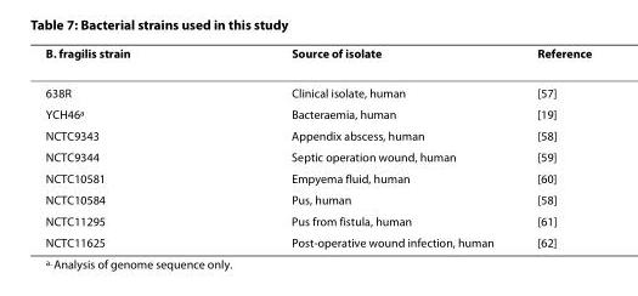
<table><thead><tr><td>B. fragilis strain</td><td>Source of isolate</td><td>Reference</td></tr></thead><tbody><tr><td>638R</td><td>Clinical isolate, human</td><td>[57]</td></tr><tr><td>YCH46<sup>a</sup></td><td>Bacteraemia, human</td><td>[19]</td></tr><tr><td>NCTC9343</td><td>Appendix abscess, human</td><td>[58]</td></tr><tr><td>NCTC9344</td><td>Septic operation wound, human</td><td>[59]</td></tr><tr><td>NCTC10581</td><td>Empyema fluid, human</td><td>[60]</td></tr><tr><td>NCTC10584</td><td>Pus, human</td><td>[58]</td></tr><tr><td>NCTC11295</td><td>Pus from fistula, human</td><td>[61]</td></tr><tr><td>NCTC11625</td><td>Post-operative wound infection, human</td><td>[62]</td></tr></tbody></table>